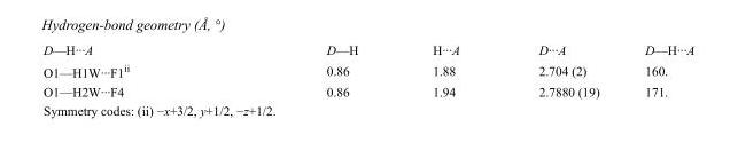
<table><tbody><tr><td>D—H···A</td><td>D—H</td><td>H···A</td><td>D···A</td><td>D—H···A</td></tr><tr><td>O1—H1W···F1<sup>ii</sup></td><td>0.86</td><td>1.88</td><td>2.704 (2)</td><td>160.</td></tr><tr><td>O1—H2W···F4</td><td>0.86</td><td>1.94</td><td>2.7880 (19)</td><td>171.</td></tr></tbody></table>